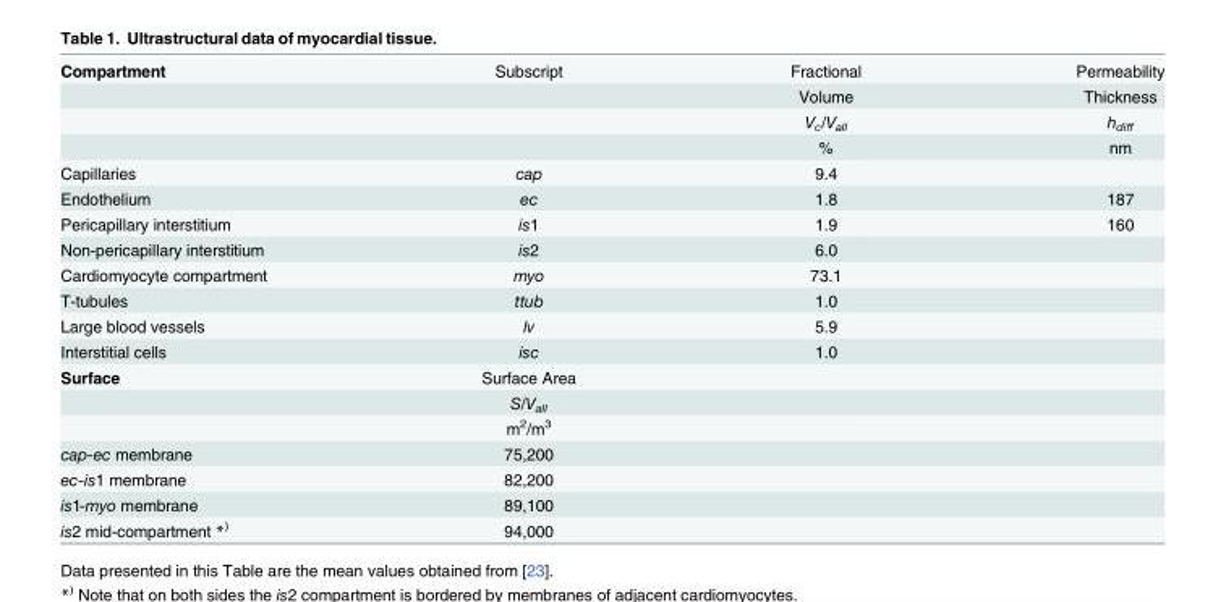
<table><tbody><tr><td rowspan="4">Compartment</td><td>Subscript</td><td>Fractional</td><td>Permeability</td></tr><tr><td></td><td>Volume</td><td>Thickness</td></tr><tr><td></td><td>V<sub>c</sub>/V<sub>all</sub></td><td>h<sub>diff</sub></td></tr><tr><td></td><td>%</td><td>nm</td></tr><tr><td>Capillaries</td><td>cap</td><td>9.4</td><td></td></tr><tr><td>Endothelium</td><td>ec</td><td>1.8</td><td>187</td></tr><tr><td>Pericapillary interstitium</td><td>is1</td><td>1.9</td><td>160</td></tr><tr><td>Non-pericapillary interstitium</td><td>is2</td><td>6.0</td><td></td></tr><tr><td>Cardiomyocyte compartment</td><td>myo</td><td>73.1</td><td></td></tr><tr><td>T-tubules</td><td>ttub</td><td>1.0</td><td></td></tr><tr><td>Large blood vessels</td><td>lv</td><td>5.9</td><td></td></tr><tr><td>Interstitial cells</td><td>isc</td><td>1.0</td><td></td></tr><tr><td rowspan="3">Surface</td><td>Surface Area</td><td></td><td></td></tr><tr><td>S/V<sub>all</sub></td><td></td><td></td></tr><tr><td>m<sup>2</sup>/m<sup>3</sup></td><td></td><td></td></tr><tr><td>cap-ec membrane</td><td>75,200</td><td></td><td></td></tr><tr><td>ec-is1 membrane</td><td>82,200</td><td></td><td></td></tr><tr><td>is1-myo membrane</td><td>89,100</td><td></td><td></td></tr><tr><td>is2 mid-compartment *<sup>)</sup></td><td>94,000</td><td></td><td></td></tr></tbody></table>